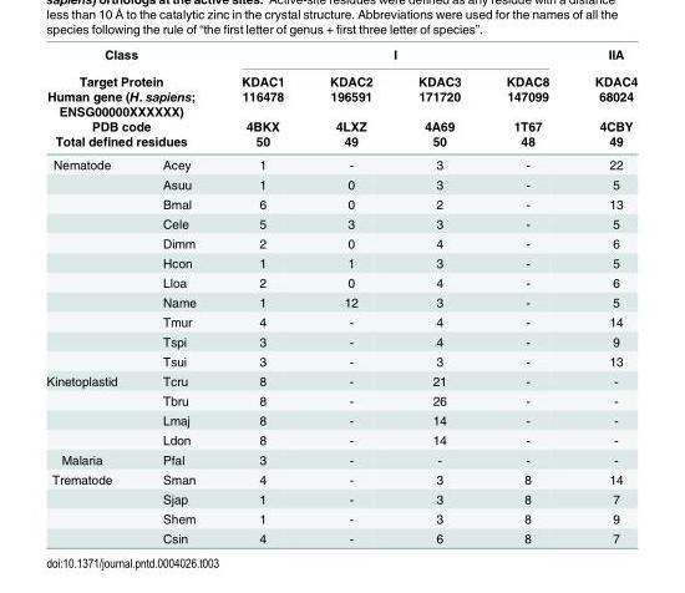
<table><thead><tr><td rowspan="5" colspan="2">Class Target Protein Human gene (H. sapiens; ENSG00000XXXXXX) PDB code Total defined residues</td><td colspan="4">I</td><td rowspan="6">IIA KDAC4 68024 4CBY 49 22</td></tr><tr><td rowspan="5">KDAC1 116478 4BKX 50 1</td><td rowspan="5">KDAC2 196591 4LXZ 49 -</td><td rowspan="5">KDAC3 171720 4A69 50 3</td><td rowspan="5">KDAC8 147099 1T67 48 -</td></tr><tr></tr><tr></tr><tr></tr><tr><td>Nematode</td><td>Acey</td></tr></thead><tbody><tr><td></td><td>Asuu</td><td>1</td><td>0</td><td>3</td><td>-</td><td>5</td></tr><tr><td></td><td>Bmal</td><td>6</td><td>0</td><td>2</td><td>-</td><td>13</td></tr><tr><td></td><td>Cele</td><td>5</td><td>3</td><td>3</td><td>-</td><td>5</td></tr><tr><td></td><td>Dimm</td><td>2</td><td>0</td><td>4</td><td>-</td><td>6</td></tr><tr><td></td><td>Hcon</td><td>1</td><td>1</td><td>3</td><td>-</td><td>5</td></tr><tr><td></td><td>Lloa</td><td>2</td><td>0</td><td>4</td><td>-</td><td>6</td></tr><tr><td></td><td>Name</td><td>1</td><td>12</td><td>3</td><td>-</td><td>5</td></tr><tr><td></td><td>Tmur</td><td>4</td><td>-</td><td>4</td><td>-</td><td>14</td></tr><tr><td></td><td>Tspi</td><td>3</td><td>-</td><td>4</td><td>-</td><td>9</td></tr><tr><td></td><td>Tsui</td><td>3</td><td>-</td><td>3</td><td>-</td><td>13</td></tr><tr><td rowspan="4">Kinetoplastid</td><td>Tcru</td><td>8</td><td>-</td><td>21</td><td>-</td><td>-</td></tr><tr><td>Tbru</td><td>8</td><td>-</td><td>26</td><td>-</td><td>-</td></tr><tr><td>Lmaj</td><td>8</td><td>-</td><td>14</td><td>-</td><td>-</td></tr><tr><td>Ldon</td><td>8</td><td>-</td><td>14</td><td>-</td><td>-</td></tr><tr><td>Malaria</td><td>Pfal</td><td>3</td><td>-</td><td>-</td><td>-</td><td>-</td></tr><tr><td rowspan="4">Trematode</td><td>Sman</td><td>4</td><td>-</td><td>3</td><td>8</td><td>14</td></tr><tr><td>Sjap</td><td>1</td><td>-</td><td>3</td><td>8</td><td>7</td></tr><tr><td>Shem</td><td>1</td><td>-</td><td>3</td><td>8</td><td>9</td></tr><tr><td>Csin</td><td>4</td><td>-</td><td>6</td><td>8</td><td>7</td></tr></tbody></table>